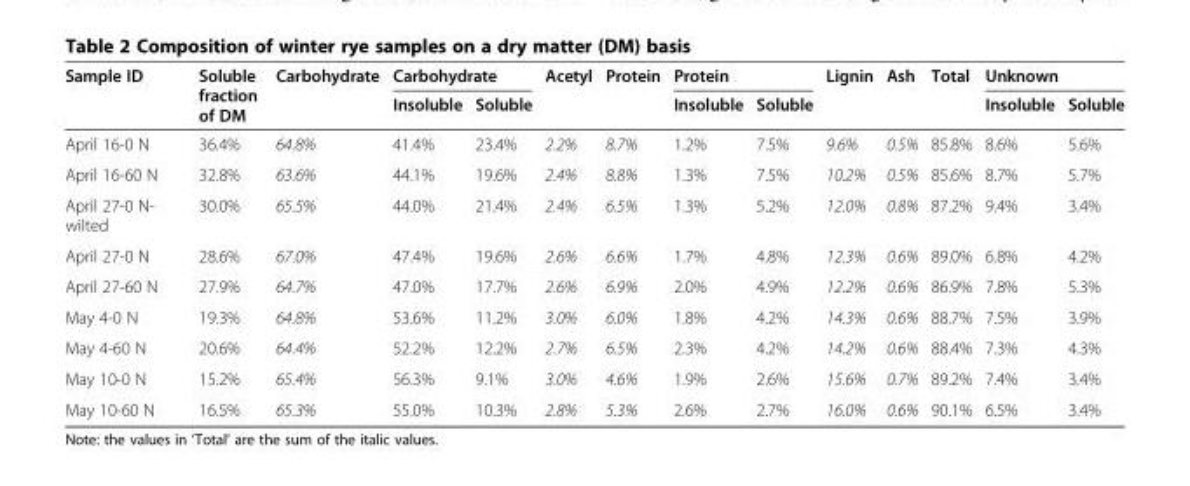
<table><thead><tr><td rowspan="2">Sample ID</td><td rowspan="2">Soluble fraction of DM</td><td rowspan="2">Carbohydrate</td><td colspan="2">Carbohydrate</td><td rowspan="2">Acetyl</td><td rowspan="2">Protein</td><td colspan="2">Protein</td><td rowspan="2">Lignin</td><td rowspan="2">Ash</td><td rowspan="2">Total</td><td colspan="2">Unknown</td></tr><tr><td>Insoluble</td><td>Soluble</td><td>Insoluble</td><td>Soluble</td><td>Insoluble</td><td>Soluble</td></tr></thead><tbody><tr><td>April 16-0 N</td><td>36.4%</td><td>64.8%</td><td>41.4%</td><td>23.4%</td><td>2.2%</td><td>8.7%</td><td>1.2%</td><td>7.5%</td><td>9.6%</td><td>0.5%</td><td>85.8%</td><td>8.6%</td><td>5.6%</td></tr><tr><td>April 16-60 N</td><td>32.8%</td><td>63.6%</td><td>44.1%</td><td>19.6%</td><td>2.4%</td><td>8.8%</td><td>1.3%</td><td>7.5%</td><td>10.2%</td><td>0.5%</td><td>85.6%</td><td>8.7%</td><td>5.7%</td></tr><tr><td>April 27-0 N- wilted</td><td>30.0%</td><td>65.5%</td><td>44.0%</td><td>21.4%</td><td>2.4%</td><td>6.5%</td><td>1.3%</td><td>5.2%</td><td>12.0%</td><td>0.8%</td><td>87.2%</td><td>9.4%</td><td>3.4%</td></tr><tr><td>April 27-0 N</td><td>28.6%</td><td>67.0%</td><td>47.4%</td><td>19.6%</td><td>2.6%</td><td>6.6%</td><td>1.7%</td><td>4.8%</td><td>12.3%</td><td>0.6%</td><td>89.0%</td><td>6.8%</td><td>4.2%</td></tr><tr><td>April 27-60 N</td><td>27.9%</td><td>64.7%</td><td>47.0%</td><td>17.7%</td><td>2.6%</td><td>6.9%</td><td>2.0%</td><td>4.9%</td><td>12.2%</td><td>0.6%</td><td>86.9%</td><td>7.8%</td><td>5.3%</td></tr><tr><td>May 4-0 N</td><td>19.3%</td><td>64.8%</td><td>53.6%</td><td>11.2%</td><td>3.0%</td><td>6.0%</td><td>1.8%</td><td>4.2%</td><td>14.3%</td><td>0.6%</td><td>88.7%</td><td>7.5%</td><td>3.9%</td></tr><tr><td>May 4-60 N</td><td>20.6%</td><td>64.4%</td><td>52.2%</td><td>12.2%</td><td>2.7%</td><td>6.5%</td><td>2.3%</td><td>4.2%</td><td>14.2%</td><td>0.6%</td><td>88.4%</td><td>7.3%</td><td>4.3%</td></tr><tr><td>May 10-0 N</td><td>15.2%</td><td>65.4%</td><td>56.3%</td><td>9.1%</td><td>3.0%</td><td>4.6%</td><td>1.9%</td><td>2.6%</td><td>15.6%</td><td>0.7%</td><td>89.2%</td><td>7.4%</td><td>3.4%</td></tr><tr><td>May 10-60 N</td><td>16.5%</td><td>65.3%</td><td>55.0%</td><td>10.3%</td><td>2.8%</td><td>5.3%</td><td>2.6%</td><td>2.7%</td><td>16.0%</td><td>0.6%</td><td>90.1%</td><td>6.5%</td><td>3.4%</td></tr></tbody></table>